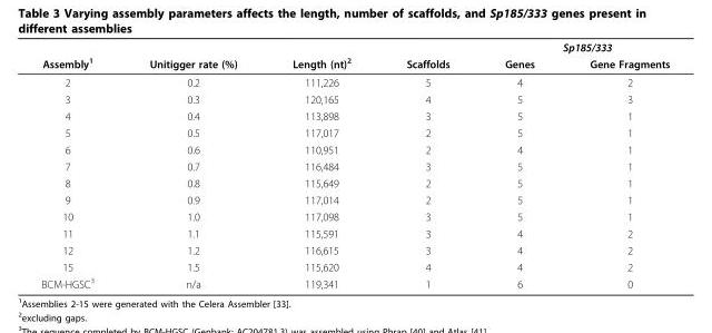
<table><thead><tr><td rowspan="2">Assembly<sup>1</sup></td><td rowspan="2">Unitigger rate (%)</td><td rowspan="2">Length (nt)<sup>2</sup></td><td rowspan="2">Scaffolds</td><td colspan="2">Sp185/333</td></tr><tr><td>Genes</td><td>Gene Fragments</td></tr></thead><tbody><tr><td>2</td><td>0.2</td><td>111,226</td><td>5</td><td>4</td><td>2</td></tr><tr><td>3</td><td>0.3</td><td>120,165</td><td>4</td><td>5</td><td>3</td></tr><tr><td>4</td><td>0.4</td><td>113,898</td><td>3</td><td>5</td><td>1</td></tr><tr><td>5</td><td>0.5</td><td>117,017</td><td>2</td><td>5</td><td>1</td></tr><tr><td>6</td><td>0.6</td><td>110,951</td><td>2</td><td>4</td><td>1</td></tr><tr><td>7</td><td>0.7</td><td>116,484</td><td>3</td><td>5</td><td>1</td></tr><tr><td>8</td><td>0.8</td><td>115,649</td><td>2</td><td>5</td><td>1</td></tr><tr><td>9</td><td>0.9</td><td>117,014</td><td>2</td><td>5</td><td>1</td></tr><tr><td>10</td><td>1.0</td><td>117,098</td><td>3</td><td>5</td><td>1</td></tr><tr><td>11</td><td>1.1</td><td>115,591</td><td>3</td><td>4</td><td>2</td></tr><tr><td>12</td><td>1.2</td><td>116,615</td><td>3</td><td>4</td><td>2</td></tr><tr><td>15</td><td>1.5</td><td>115,620</td><td>4</td><td>4</td><td>2</td></tr><tr><td>BCM-HGSC<sup>3</sup></td><td>n/a</td><td>119,341</td><td>1</td><td>6</td><td>0</td></tr></tbody></table>